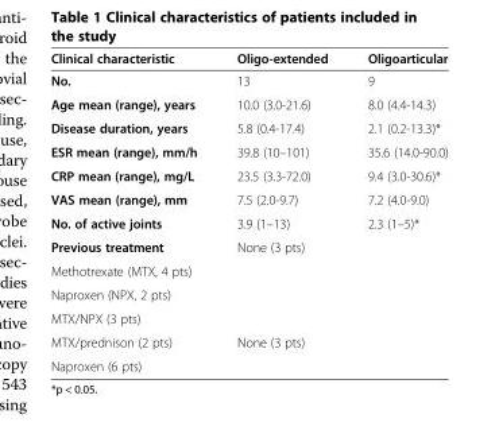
<table><thead><tr><td>Clinical characteristic</td><td>Oligo-extended</td><td>Oligoarticular</td></tr></thead><tbody><tr><td>No.</td><td>13</td><td>9</td></tr><tr><td>Age mean (range), years</td><td>10.0 (3.0-21.6)</td><td>8.0 (4.4-14.3)</td></tr><tr><td>Disease duration, years</td><td>5.8 (0.4-17.4)</td><td>2.1 (0.2-13.3)*</td></tr><tr><td>ESR mean (range), mm/h</td><td>39.8 (10–101)</td><td>35.6 (14.0-90.0)</td></tr><tr><td>CRP mean (range), mg/L</td><td>23.5 (3.3-72.0)</td><td>9.4 (3.0-30.6)*</td></tr><tr><td>VAS mean (range), mm</td><td>7.5 (2.0-9.7)</td><td>7.2 (4.0-9.0)</td></tr><tr><td>No. of active joints</td><td>3.9 (1–13)</td><td>2.3 (1–5)*</td></tr><tr><td>Previous treatment</td><td>None (3 pts)</td><td></td></tr><tr><td colspan="3">Methotrexate (MTX, 4 pts)</td></tr><tr><td colspan="3">Naproxen (NPX, 2 pts)</td></tr><tr><td colspan="3">MTX/NPX (3 pts)</td></tr><tr><td>MTX/prednison (2 pts)</td><td>None (3 pts)</td><td></td></tr><tr><td>Naproxen (6 pts)</td><td></td><td></td></tr></tbody></table>